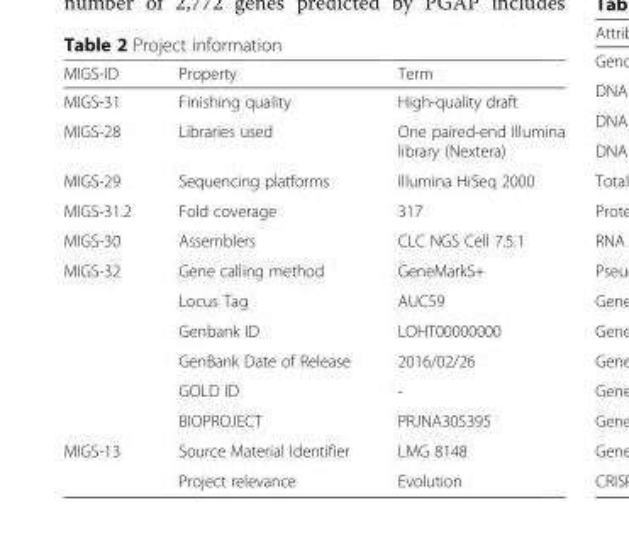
<table><thead><tr><td>MIGS-ID</td><td>Property</td><td>Term</td></tr></thead><tbody><tr><td>MIGS-31</td><td>Finishing quality</td><td>High-quality draft</td></tr><tr><td>MIGS-28</td><td>Libraries used</td><td>One paired-end Illumina library (Nextera)</td></tr><tr><td>MIGS-29</td><td>Sequencing platforms</td><td>Illumina HiSeq 2000</td></tr><tr><td>MIGS-31.2</td><td>Fold coverage</td><td>317</td></tr><tr><td>MIGS-30</td><td>Assemblers</td><td>CLC NGS Cell 7.5.1</td></tr><tr><td rowspan="6">MIGS-32</td><td>Gene calling method</td><td>GeneMarkS+</td></tr><tr><td>Locus Tag</td><td>AUC59</td></tr><tr><td>Genbank ID</td><td>LOHT00000000</td></tr><tr><td>GenBank Date of Release</td><td>2016/02/26</td></tr><tr><td>GOLD ID</td><td>-</td></tr><tr><td>BIOPROJECT</td><td>PRJNA305395</td></tr><tr><td rowspan="2">MIGS-13</td><td>Source Material Identifier</td><td>LMG 8148</td></tr><tr><td>Project relevance</td><td>Evolution</td></tr></tbody></table>